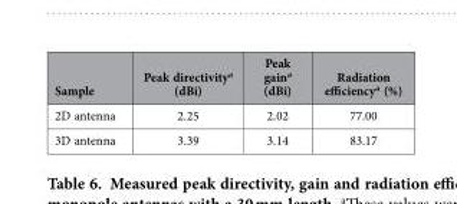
<table><thead><tr><td>Sample</td><td>Peak directivity<sup>a</sup> (dBi)</td><td>Peak gain<sup>a</sup> (dBi)</td><td>Radiation efficiency<sup>a</sup> (%)</td></tr></thead><tbody><tr><td>2D antenna</td><td>2.25</td><td>2.02</td><td>77.00</td></tr><tr><td>3D antenna</td><td>3.39</td><td>3.14</td><td>83.17</td></tr></tbody></table>